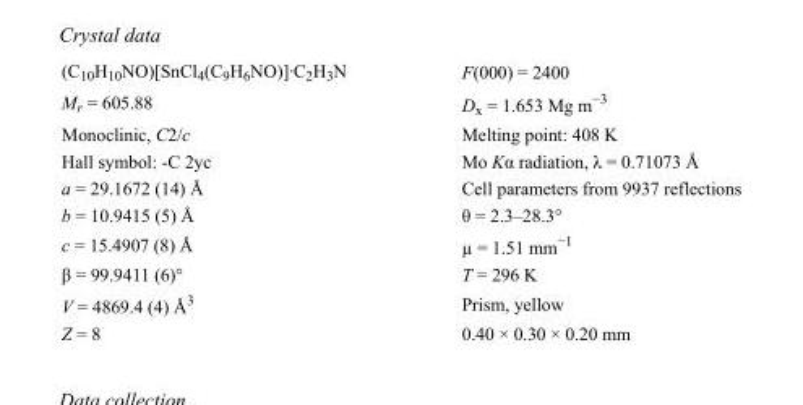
<table><tbody><tr><td>(C<sub>10</sub>H<sub>10</sub>NO)[SnCl<sub>4</sub>(C<sub>9</sub>H<sub>6</sub>NO)]·C<sub>2</sub>H<sub>3</sub>N</td><td>F(000) = 2400</td></tr><tr><td>M<sub>r</sub> = 605.88</td><td>D<sub>x</sub> = 1.653 Mg m<sup>−3</sup></td></tr><tr><td>Monoclinic, C2/c</td><td>Melting point: 408 K</td></tr><tr><td>Hall symbol: -C 2yc</td><td>Mo Kα radiation, λ = 0.71073 Å</td></tr><tr><td>a = 29.1672 (14) Å</td><td>Cell parameters from 9937 reflections</td></tr><tr><td>b = 10.9415 (5) Å</td><td>θ = 2.3–28.3°</td></tr><tr><td>c = 15.4907 (8) Å</td><td>µ = 1.51 mm<sup>−1</sup></td></tr><tr><td>β = 99.9411 (6)°</td><td>T = 296 K</td></tr><tr><td>V = 4869.4 (4) Å<sup>3</sup></td><td>Prism, yellow</td></tr><tr><td>Z = 8</td><td>0.40 × 0.30 × 0.20 mm</td></tr></tbody></table>